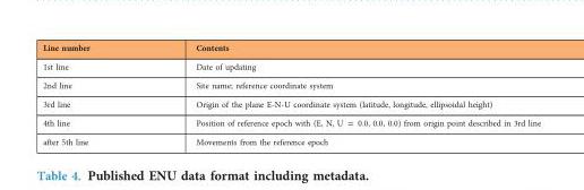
<table><thead><tr><td>Line number</td><td>Contents</td></tr></thead><tbody><tr><td>1st line</td><td>Date of updating</td></tr><tr><td>2nd line</td><td>Site name; reference coordinate system</td></tr><tr><td>3rd line</td><td>Origin of the plane E-N-U coordinate system (latitude, longitude, ellipsoidal height)</td></tr><tr><td>4th line</td><td>Position of reference epoch with (E, N, U = 0.0, 0.0, 0.0) from origin point described in 3rd line</td></tr><tr><td>after 5th line</td><td>Movements from the reference epoch</td></tr></tbody></table>